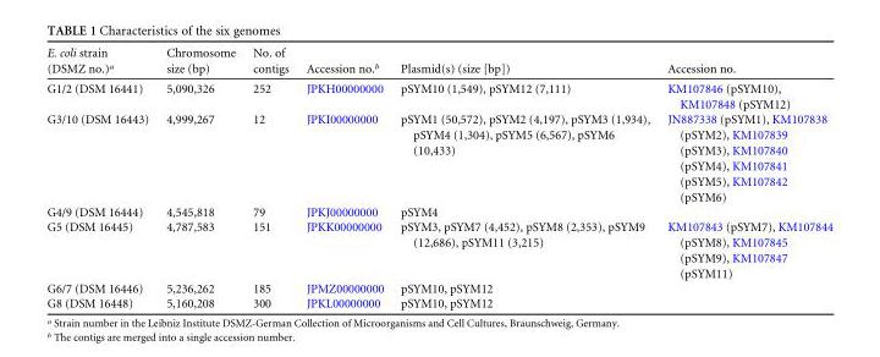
<table><thead><tr><td>E. coli strain (DSMZ no.)<sup>a</sup></td><td>Chromosome size (bp)</td><td>No. of contigs</td><td>Accession no.<sup>b</sup></td><td>Plasmid(s) (size [bp])</td><td>Accession no.</td></tr></thead><tbody><tr><td>G1/2 (DSM 16441)</td><td>5,090,326</td><td>252</td><td>JPKH00000000</td><td>pSYM10 (1,549), pSYM12 (7,111)</td><td>KM107846 (pSYM10), KM107848 (pSYM12)</td></tr><tr><td>G3/10 (DSM 16443)</td><td>4,999,267</td><td>12</td><td>JPKI00000000</td><td>pSYM1 (50,572), pSYM2 (4,197), pSYM3 (1,934), pSYM4 (1,304), pSYM5 (6,567), pSYM6 (10,433)</td><td>JN887338 (pSYM1), KM107838 (pSYM2), KM107839 (pSYM3), KM107840 (pSYM4), KM107841 (pSYM5), KM107842 (pSYM6)</td></tr><tr><td>G4/9 (DSM 16444)</td><td>4,545,818</td><td>79</td><td>JPKJ00000000</td><td>pSYM4</td><td></td></tr><tr><td>G5 (DSM 16445)</td><td>4,787,583</td><td>151</td><td>JPKK00000000</td><td>pSYM3, pSYM7 (4,452), pSYM8 (2,353), pSYM9 (12,686), pSYM11 (3,215)</td><td>KM107843 (pSYM7), KM107844 (pSYM8), KM107845 (pSYM9), KM107847 (pSYM11)</td></tr><tr><td>G6/7 (DSM 16446)</td><td>5,236,262</td><td>185</td><td>JPMZ00000000</td><td>pSYM10, pSYM12</td><td></td></tr><tr><td>G8 (DSM 16448)</td><td>5,160,208</td><td>300</td><td>JPKL00000000</td><td>pSYM10, pSYM12</td><td></td></tr></tbody></table>